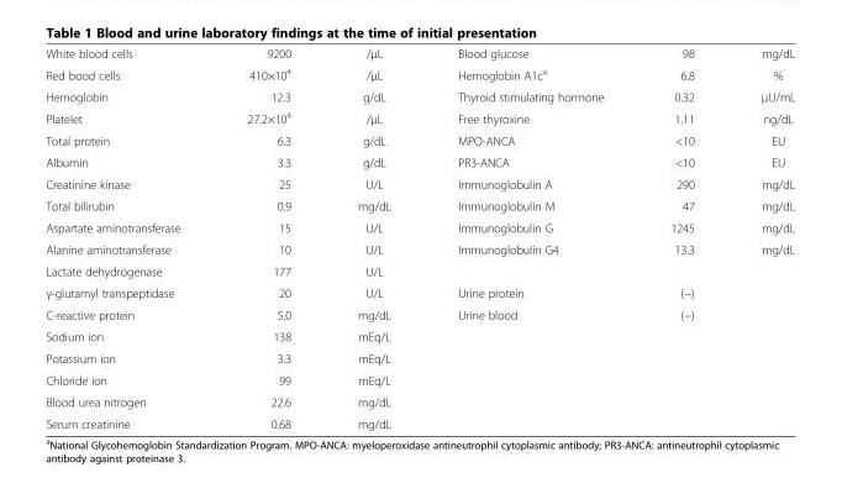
<table><tbody><tr><td>White blood cells</td><td>9200</td><td>/μL</td><td>Blood glucose</td><td>98</td><td>mg/dL</td></tr><tr><td>Red bood cells</td><td>410×10<sup>4</sup></td><td>/μL</td><td>Hemoglobin A1c<sup>a</sup></td><td>6.8</td><td>%</td></tr><tr><td>Hemoglobin</td><td>12.3</td><td>g/dL</td><td>Thyroid stimulating hormone</td><td>0.32</td><td>μU/mL</td></tr><tr><td>Platelet</td><td>27.2×10<sup>4</sup></td><td>/μL</td><td>Free thyroxine</td><td>1.11</td><td>ng/dL</td></tr><tr><td>Total protein</td><td>6.3</td><td>g/dL</td><td>MPO-ANCA</td><td>&lt;10</td><td>EU</td></tr><tr><td>Albumin</td><td>3.3</td><td>g/dL</td><td>PR3-ANCA</td><td>&lt;10</td><td>EU</td></tr><tr><td>Creatinine kinase</td><td>25</td><td>U/L</td><td>Immunoglobulin A</td><td>290</td><td>mg/dL</td></tr><tr><td>Total bilirubin</td><td>0.9</td><td>mg/dL</td><td>Immunoglobulin M</td><td>47</td><td>mg/dL</td></tr><tr><td>Aspartate aminotransferase</td><td>15</td><td>U/L</td><td>Immunoglobulin G</td><td>1245</td><td>mg/dL</td></tr><tr><td>Alanine aminotransferase</td><td>10</td><td>U/L</td><td>Immunoglobulin G4</td><td>13.3</td><td>mg/dL</td></tr><tr><td>Lactate dehydrogenase</td><td>177</td><td>U/L</td><td></td><td></td><td></td></tr><tr><td>γ-glutamyl transpeptidase</td><td>20</td><td>U/L</td><td>Urine protein</td><td>(−)</td><td></td></tr><tr><td>C-reactive protein</td><td>5.0</td><td>mg/dL</td><td>Urine blood</td><td>(−)</td><td></td></tr><tr><td>Sodium ion</td><td>138</td><td>mEq/L</td><td></td><td></td><td></td></tr><tr><td>Potassium ion</td><td>3.3</td><td>mEq/L</td><td></td><td></td><td></td></tr><tr><td>Chloride ion</td><td>99</td><td>mEq/L</td><td></td><td></td><td></td></tr><tr><td>Blood urea nitrogen</td><td>22.6</td><td>mg/dL</td><td></td><td></td><td></td></tr><tr><td>Serum creatinine</td><td>0.68</td><td>mg/dL</td><td></td><td></td><td></td></tr></tbody></table>